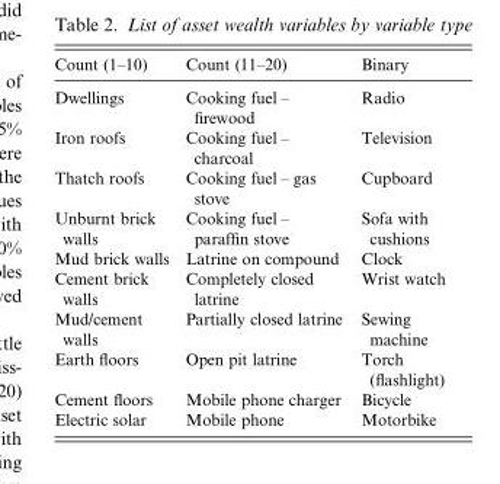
<table><thead><tr><td>Count (1–10)</td><td>Count (11–20)</td><td>Binary</td></tr></thead><tbody><tr><td>Dwellings</td><td>Cooking fuel – firewood</td><td>Radio</td></tr><tr><td>Iron roofs</td><td>Cooking fuel – charcoal</td><td>Television</td></tr><tr><td>Thatch roofs</td><td>Cooking fuel – gas stove</td><td>Cupboard</td></tr><tr><td>Unburnt brick walls</td><td>Cooking fuel – paraffin stove</td><td>Sofa with cushions</td></tr><tr><td>Mud brick walls</td><td>Latrine on compound</td><td>Clock</td></tr><tr><td>Cement brick walls</td><td>Completely closed latrine</td><td>Wrist watch</td></tr><tr><td>Mud/cement walls</td><td>Partially closed latrine</td><td>Sewing machine</td></tr><tr><td>Earth floors</td><td>Open pit latrine</td><td>Torch (flashlight)</td></tr><tr><td>Cement floors</td><td>Mobile phone charger</td><td>Bicycle</td></tr><tr><td>Electric solar</td><td>Mobile phone</td><td>Motorbike</td></tr></tbody></table>